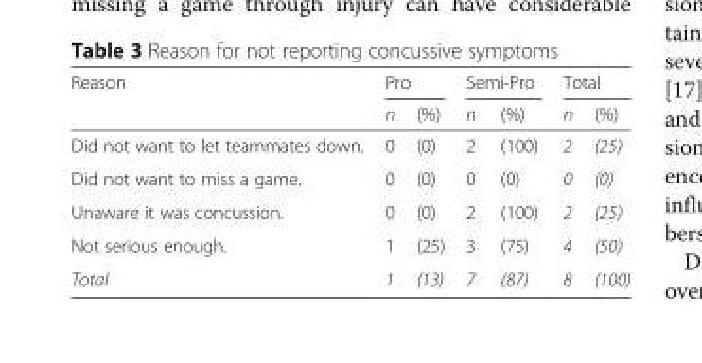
<table><thead><tr><td rowspan="2">Reason</td><td colspan="2">Pro</td><td colspan="2">Semi-Pro</td><td colspan="2">Total</td></tr><tr><td>n</td><td>(%)</td><td>n</td><td>(%)</td><td>n</td><td>(%)</td></tr></thead><tbody><tr><td>Did not want to let teammates down.</td><td>0</td><td>(0)</td><td>2</td><td>(100)</td><td>2</td><td>(25)</td></tr><tr><td>Did not want to miss a game.</td><td>0</td><td>(0)</td><td>0</td><td>(0)</td><td>0</td><td>(0)</td></tr><tr><td>Unaware it was concussion.</td><td>0</td><td>(0)</td><td>2</td><td>(100)</td><td>2</td><td>(25)</td></tr><tr><td>Not serious enough.</td><td>1</td><td>(25)</td><td>3</td><td>(75)</td><td>4</td><td>(50)</td></tr><tr><td>Total</td><td>1</td><td>(13)</td><td>7</td><td>(87)</td><td>8</td><td>(100)</td></tr></tbody></table>